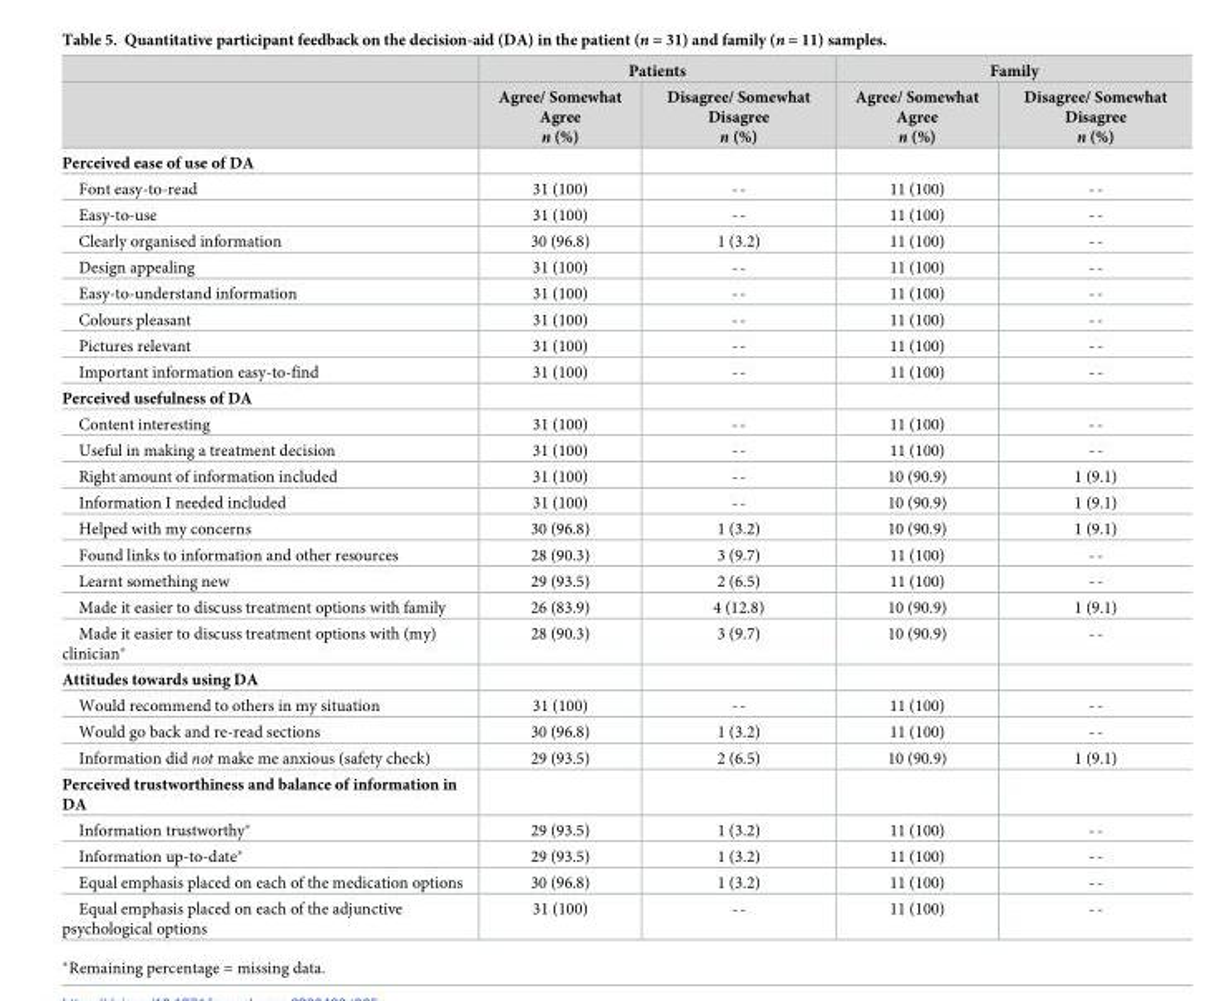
<table><thead><tr><td rowspan="2"></td><td colspan="2">Patients</td><td colspan="2">Family</td></tr><tr><td>Agree/ Somewhat Agree n (%)</td><td>Disagree/ Somewhat Disagree n (%)</td><td>Agree/ Somewhat Agree n (%)</td><td>Disagree/ Somewhat Disagree n (%)</td></tr></thead><tbody><tr><td colspan="5">Perceived ease of use of DA</td></tr><tr><td>Font easy-to-read</td><td>31 (100)</td><td>--</td><td>11 (100)</td><td>--</td></tr><tr><td>Easy-to-use</td><td>31 (100)</td><td>--</td><td>11 (100)</td><td>--</td></tr><tr><td>Clearly organised information</td><td>30 (96.8)</td><td>1 (3.2)</td><td>11 (100)</td><td>--</td></tr><tr><td>Design appealing</td><td>31 (100)</td><td>--</td><td>11 (100)</td><td>--</td></tr><tr><td>Easy-to-understand information</td><td>31 (100)</td><td>--</td><td>11 (100)</td><td>--</td></tr><tr><td>Colours pleasant</td><td>31 (100)</td><td>--</td><td>11 (100)</td><td>--</td></tr><tr><td>Pictures relevant</td><td>31 (100)</td><td>--</td><td>11 (100)</td><td>--</td></tr><tr><td>Important information easy-to-find</td><td>31 (100)</td><td>--</td><td>11 (100)</td><td>--</td></tr><tr><td colspan="5">Perceived usefulness of DA</td></tr><tr><td>Content interesting</td><td>31 (100)</td><td>--</td><td>11 (100)</td><td>--</td></tr><tr><td>Useful in making a treatment decision</td><td>31 (100)</td><td>--</td><td>11 (100)</td><td>--</td></tr><tr><td>Right amount of information included</td><td>31 (100)</td><td>--</td><td>10 (90.9)</td><td>1 (9.1)</td></tr><tr><td>Information I needed included</td><td>31 (100)</td><td>--</td><td>10 (90.9)</td><td>1 (9.1)</td></tr><tr><td>Helped with my concerns</td><td>30 (96.8)</td><td>1 (3.2)</td><td>10 (90.9)</td><td>1 (9.1)</td></tr><tr><td>Found links to information and other resources</td><td>28 (90.3)</td><td>3 (9.7)</td><td>11 (100)</td><td>--</td></tr><tr><td>Learnt something new</td><td>29 (93.5)</td><td>2 (6.5)</td><td>11 (100)</td><td>--</td></tr><tr><td>Made it easier to discuss treatment options with family</td><td>26 (83.9)</td><td>4 (12.8)</td><td>10 (90.9)</td><td>1 (9.1)</td></tr><tr><td>Made it easier to discuss treatment options with (my) clinician*</td><td>28 (90.3)</td><td>3 (9.7)</td><td>10 (90.9)</td><td>--</td></tr><tr><td colspan="5">Attitudes towards using DA</td></tr><tr><td>Would recommend to others in my situation</td><td>31 (100)</td><td>--</td><td>11 (100)</td><td>--</td></tr><tr><td>Would go back and re-read sections</td><td>30 (96.8)</td><td>1 (3.2)</td><td>11 (100)</td><td>--</td></tr><tr><td>Information did not make me anxious (safety check)</td><td>29 (93.5)</td><td>2 (6.5)</td><td>10 (90.9)</td><td>1 (9.1)</td></tr><tr><td colspan="5">Perceived trustworthiness and balance of information in DA</td></tr><tr><td>Information trustworthy*</td><td>29 (93.5)</td><td>1 (3.2)</td><td>11 (100)</td><td>--</td></tr><tr><td>Information up-to-date*</td><td>29 (93.5)</td><td>1 (3.2)</td><td>11 (100)</td><td>--</td></tr><tr><td>Equal emphasis placed on each of the medication options</td><td>30 (96.8)</td><td>1 (3.2)</td><td>11 (100)</td><td>--</td></tr><tr><td>Equal emphasis placed on each of the adjunctive psychological options</td><td>31 (100)</td><td>--</td><td>11 (100)</td><td>--</td></tr></tbody></table>